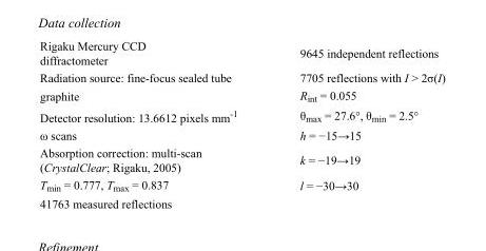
<table><tbody><tr><td>Rigaku Mercury CCD diffractometer</td><td>9645 independent reflections</td></tr><tr><td>Radiation source: fine-focus sealed tube</td><td>7705 reflections with I &gt; 2σ(I)</td></tr><tr><td>graphite</td><td>R<sub>int</sub> = 0.055</td></tr><tr><td>Detector resolution: 13.6612 pixels mm<sup>-1</sup></td><td>θ<sub>max</sub> = 27.6°, θ<sub>min</sub> = 2.5°</td></tr><tr><td>ω scans</td><td>h = −15→15</td></tr><tr><td>Absorption correction: multi-scan (CrystalClear; Rigaku, 2005)</td><td>k = −19→19</td></tr><tr><td>T<sub>min</sub> = 0.777, T<sub>max</sub> = 0.837</td><td>l = −30→30</td></tr><tr><td>41763 measured reflections</td><td></td></tr></tbody></table>